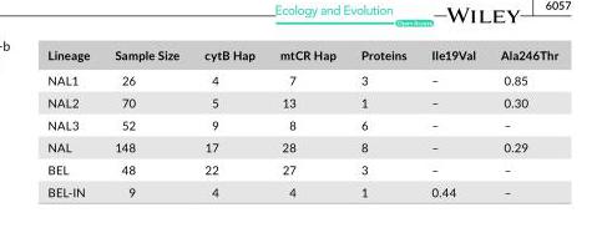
<table><thead><tr><td>Lineage</td><td>Sample Size</td><td>cytB Hap</td><td>mtCR Hap</td><td>Proteins</td><td>Ile19Val</td><td>Ala246Thr</td></tr></thead><tbody><tr><td>NAL1</td><td>26</td><td>4</td><td>7</td><td>3</td><td>–</td><td>0.85</td></tr><tr><td>NAL2</td><td>70</td><td>5</td><td>13</td><td>1</td><td>–</td><td>0.30</td></tr><tr><td>NAL3</td><td>52</td><td>9</td><td>8</td><td>6</td><td>–</td><td>–</td></tr><tr><td>NAL</td><td>148</td><td>17</td><td>28</td><td>8</td><td>–</td><td>0.29</td></tr><tr><td>BEL</td><td>48</td><td>22</td><td>27</td><td>3</td><td>–</td><td>–</td></tr><tr><td>BEL- IN</td><td>9</td><td>4</td><td>4</td><td>1</td><td>0.44</td><td>–</td></tr></tbody></table>